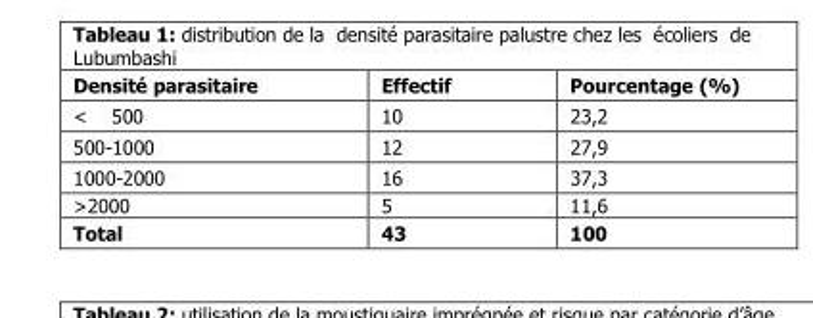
<table><thead><tr><td>Densité parasitaire</td><td>Effectif</td><td>Pourcentage (%)</td></tr></thead><tbody><tr><td>&lt; 500</td><td>10</td><td>23,2</td></tr><tr><td>500-1000</td><td>12</td><td>27,9</td></tr><tr><td>1000-2000</td><td>16</td><td>37,3</td></tr><tr><td>&gt;2000</td><td>5</td><td>11,6</td></tr><tr><td>Total</td><td>43</td><td>100</td></tr></tbody></table>